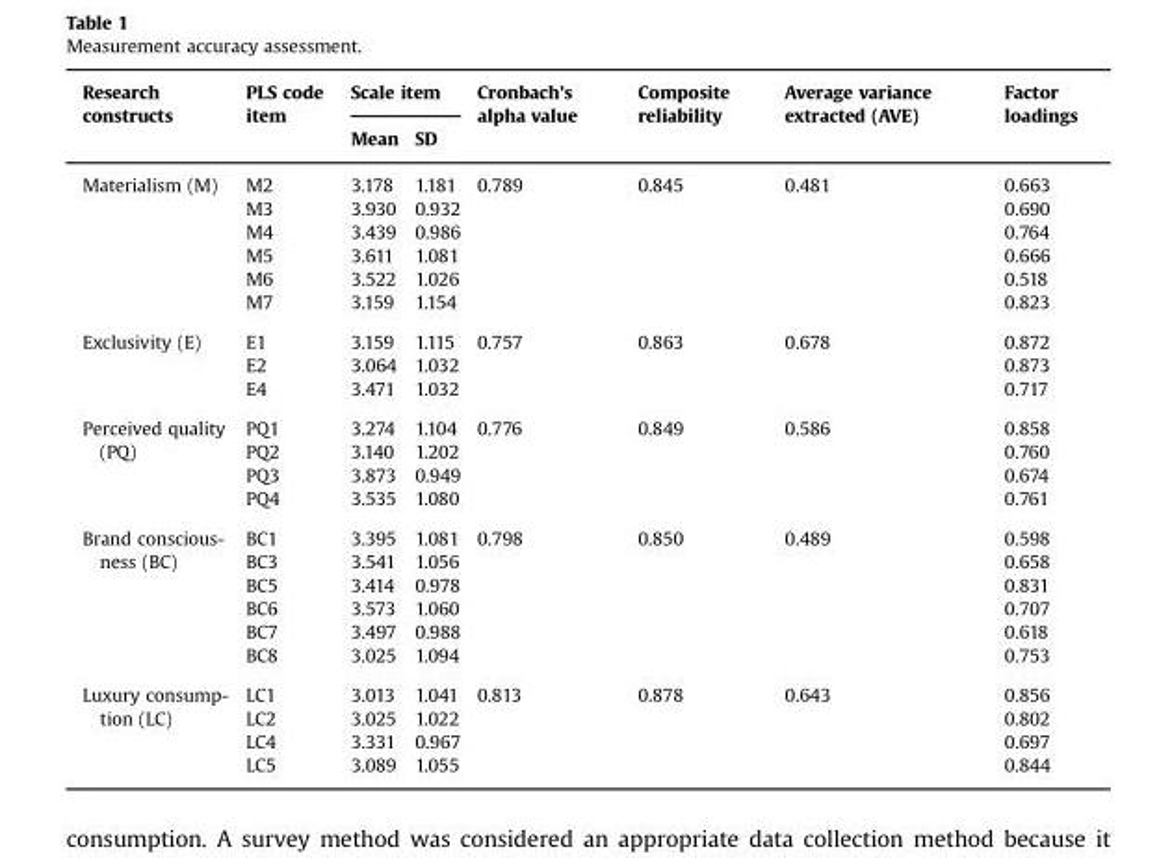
<table><thead><tr><td rowspan="2">Research constructs</td><td rowspan="2">PLS code item</td><td colspan="2">Scale item</td><td rowspan="2">Cronbach&#x27;s alpha value</td><td rowspan="2">Composite reliability</td><td rowspan="2">Average variance extracted (AVE)</td><td rowspan="2">Factor loadings</td></tr><tr><td>Mean</td><td>SD</td></tr></thead><tbody><tr><td rowspan="6">Materialism (M)</td><td>M2</td><td>3.178</td><td>1.181</td><td rowspan="6">0.789</td><td rowspan="6">0.845</td><td rowspan="6">0.481</td><td>0.663</td></tr><tr><td>M3</td><td>3.930</td><td>0.932</td><td>0.690</td></tr><tr><td>M4</td><td>3.439</td><td>0.986</td><td>0.764</td></tr><tr><td>M5</td><td>3.611</td><td>1.081</td><td>0.666</td></tr><tr><td>M6</td><td>3.522</td><td>1.026</td><td>0.518</td></tr><tr><td>M7</td><td>3.159</td><td>1.154</td><td>0.823</td></tr><tr><td rowspan="3">Exclusivity (E)</td><td>E1</td><td>3.159</td><td>1.115</td><td rowspan="3">0.757</td><td rowspan="3">0.863</td><td rowspan="3">0.678</td><td>0.872</td></tr><tr><td>E2</td><td>3.064</td><td>1.032</td><td>0.873</td></tr><tr><td>E4</td><td>3.471</td><td>1.032</td><td>0.717</td></tr><tr><td rowspan="4">Perceived quality (PQ)</td><td>PQ1</td><td>3.274</td><td>1.104</td><td rowspan="4">0.776</td><td rowspan="4">0.849</td><td rowspan="4">0.586</td><td>0.858</td></tr><tr><td>PQ2</td><td>3.140</td><td>1.202</td><td>0.760</td></tr><tr><td>PQ3</td><td>3.873</td><td>0.949</td><td>0.674</td></tr><tr><td>PQ4</td><td>3.535</td><td>1.080</td><td>0.761</td></tr><tr><td rowspan="6">Brand conscious- ness (BC)</td><td>BC1</td><td>3.395</td><td>1.081</td><td rowspan="6">0.798</td><td rowspan="6">0.850</td><td rowspan="6">0.489</td><td>0.598</td></tr><tr><td>BC3</td><td>3.541</td><td>1.056</td><td>0.658</td></tr><tr><td>BC5</td><td>3.414</td><td>0.978</td><td>0.831</td></tr><tr><td>BC6</td><td>3.573</td><td>1.060</td><td>0.707</td></tr><tr><td>BC7</td><td>3.497</td><td>0.988</td><td>0.618</td></tr><tr><td>BC8</td><td>3.025</td><td>1.094</td><td>0.753</td></tr><tr><td rowspan="4">Luxury consump- tion (LC)</td><td>LC1</td><td>3.013</td><td>1.041</td><td rowspan="4">0.813</td><td rowspan="4">0.878</td><td rowspan="4">0.643</td><td>0.856</td></tr><tr><td>LC2</td><td>3.025</td><td>1.022</td><td>0.802</td></tr><tr><td>LC4</td><td>3.331</td><td>0.967</td><td>0.697</td></tr><tr><td>LC5</td><td>3.089</td><td>1.055</td><td>0.844</td></tr></tbody></table>